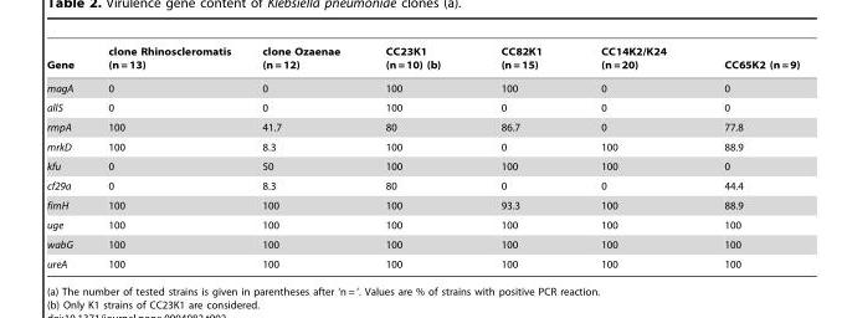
<table><thead><tr><td>Gene</td><td>clone Rhinoscleromatis (n = 13)</td><td>clone Ozaenae (n = 12)</td><td>CC23K1 (n = 10) (b)</td><td>CC82K1 (n = 15)</td><td>CC14K2/K24 (n = 20)</td><td>CC65K2 (n = 9)</td></tr></thead><tbody><tr><td>magA</td><td>0</td><td>0</td><td>100</td><td>100</td><td>0</td><td>0</td></tr><tr><td>allS</td><td>0</td><td>0</td><td>100</td><td>0</td><td>0</td><td>0</td></tr><tr><td>rmpA</td><td>100</td><td>41.7</td><td>80</td><td>86.7</td><td>0</td><td>77.8</td></tr><tr><td>mrkD</td><td>100</td><td>8.3</td><td>100</td><td>0</td><td>100</td><td>88.9</td></tr><tr><td>kfu</td><td>0</td><td>50</td><td>100</td><td>100</td><td>100</td><td>0</td></tr><tr><td>cf29a</td><td>0</td><td>8.3</td><td>80</td><td>0</td><td>0</td><td>44.4</td></tr><tr><td>fimH</td><td>100</td><td>100</td><td>100</td><td>93.3</td><td>100</td><td>88.9</td></tr><tr><td>uge</td><td>100</td><td>100</td><td>100</td><td>100</td><td>100</td><td>100</td></tr><tr><td>wabG</td><td>100</td><td>100</td><td>100</td><td>100</td><td>100</td><td>100</td></tr><tr><td>ureA</td><td>100</td><td>100</td><td>100</td><td>100</td><td>100</td><td>100</td></tr></tbody></table>